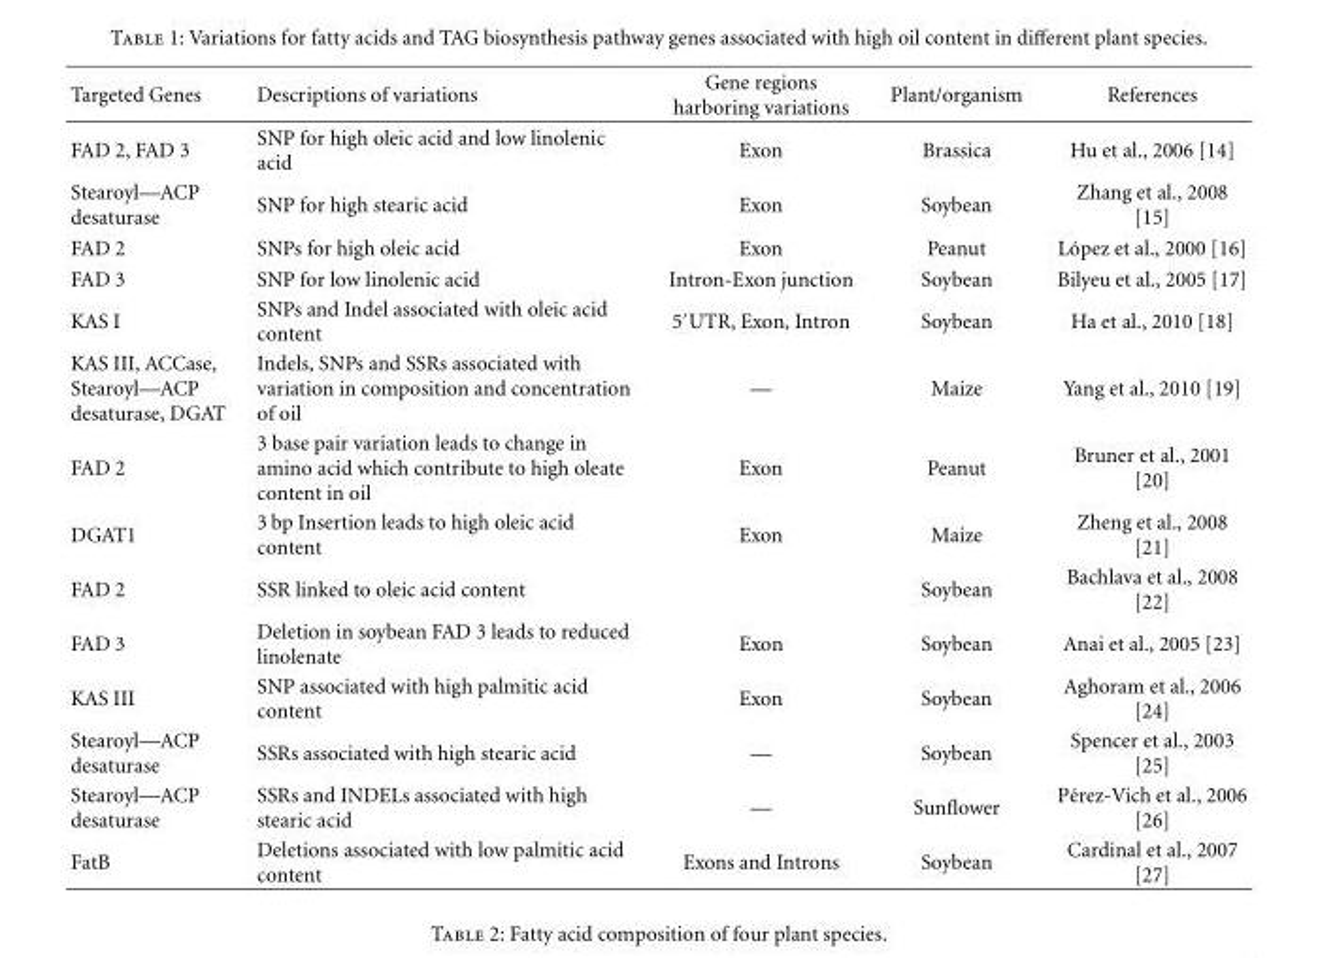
<table><thead><tr><td>Targeted Genes</td><td>Descriptions of variations</td><td>Gene regions harboring variations</td><td>Plant/organism</td><td>References</td></tr></thead><tbody><tr><td>FAD 2, FAD 3</td><td>SNP for high oleic acid and low linolenic acid</td><td>Exon</td><td>Brassica</td><td>Hu et al., 2006 [14]</td></tr><tr><td>Stearoyl—ACP desaturase</td><td>SNP for high stearic acid</td><td>Exon</td><td>Soybean</td><td>Zhang et al., 2008 [15]</td></tr><tr><td>FAD 2</td><td>SNPs for high oleic acid</td><td>Exon</td><td>Peanut</td><td>L´opez et al., 2000 [16]</td></tr><tr><td>FAD 3</td><td>SNP for low linolenic acid</td><td>Intron-Exon junction</td><td>Soybean</td><td>Bilyeu et al., 2005 [17]</td></tr><tr><td>KAS I</td><td>SNPs and Indel associated with oleic acid content</td><td>5′UTR, Exon, Intron</td><td>Soybean</td><td>Ha et al., 2010 [18]</td></tr><tr><td>KAS III, ACCase, Stearoyl—ACP desaturase, DGAT</td><td>Indels, SNPs and SSRs associated with variation in composition and concentration of oil</td><td>—</td><td>Maize</td><td>Yang et al., 2010 [19]</td></tr><tr><td>FAD 2</td><td>3 base pair variation leads to change in amino acid which contribute to high oleate content in oil</td><td>Exon</td><td>Peanut</td><td>Bruner et al., 2001 [20]</td></tr><tr><td>DGAT1</td><td>3 bp Insertion leads to high oleic acid content</td><td>Exon</td><td>Maize</td><td>Zheng et al., 2008 [21]</td></tr><tr><td>FAD 2</td><td>SSR linked to oleic acid content</td><td></td><td>Soybean</td><td>Bachlava et al., 2008 [22]</td></tr><tr><td>FAD 3</td><td>Deletion in soybean FAD 3 leads to reduced linolenate</td><td>Exon</td><td>Soybean</td><td>Anai et al., 2005 [23]</td></tr><tr><td>KAS III</td><td>SNP associated with high palmitic acid content</td><td>Exon</td><td>Soybean</td><td>Aghoram et al., 2006 [24]</td></tr><tr><td>Stearoyl—ACP desaturase</td><td>SSRs associated with high stearic acid</td><td>—</td><td>Soybean</td><td>Spencer et al., 2003 [25]</td></tr><tr><td>Stearoyl—ACP desaturase</td><td>SSRs and INDELs associated with high stearic acid</td><td>—</td><td>Sunflower</td><td>P´erez-Vich et al., 2006 [26]</td></tr><tr><td>FatB</td><td>Deletions associated with low palmitic acid content</td><td>Exons and Introns</td><td>Soybean</td><td>Cardinal et al., 2007 [27]</td></tr></tbody></table>